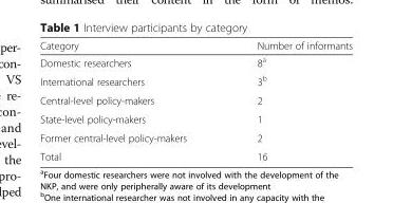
<table><thead><tr><td>Category</td><td>Number of informants</td></tr></thead><tbody><tr><td>Domestic researchers</td><td>8<sup>a</sup></td></tr><tr><td>International researchers</td><td>3<sup>b</sup></td></tr><tr><td>Central-level policy-makers</td><td>2</td></tr><tr><td>State-level policy-makers</td><td>1</td></tr><tr><td>Former central-level policy-makers</td><td>2</td></tr><tr><td>Total</td><td>16</td></tr></tbody></table>